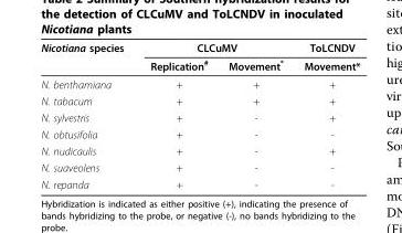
<table><thead><tr><td rowspan="2">Nicotiana species</td><td colspan="2">CLCuMV</td><td rowspan="2">ToLCNDV Movement*</td></tr><tr><td>Replication<sup>#</sup></td><td>Movement*</td></tr></thead><tbody><tr><td>N. benthamiana</td><td>+</td><td>+</td><td>+</td></tr><tr><td>N. tabacum</td><td>+</td><td>+</td><td>+</td></tr><tr><td>N. sylvestris</td><td>+</td><td>-</td><td>+</td></tr><tr><td>N. obtusifolia</td><td>+</td><td>-</td><td>-</td></tr><tr><td>N. nudicaulis</td><td>+</td><td>-</td><td>+</td></tr><tr><td>N. suaveolens</td><td>+</td><td>-</td><td>-</td></tr><tr><td>N. repanda</td><td>+</td><td>-</td><td>-</td></tr></tbody></table>